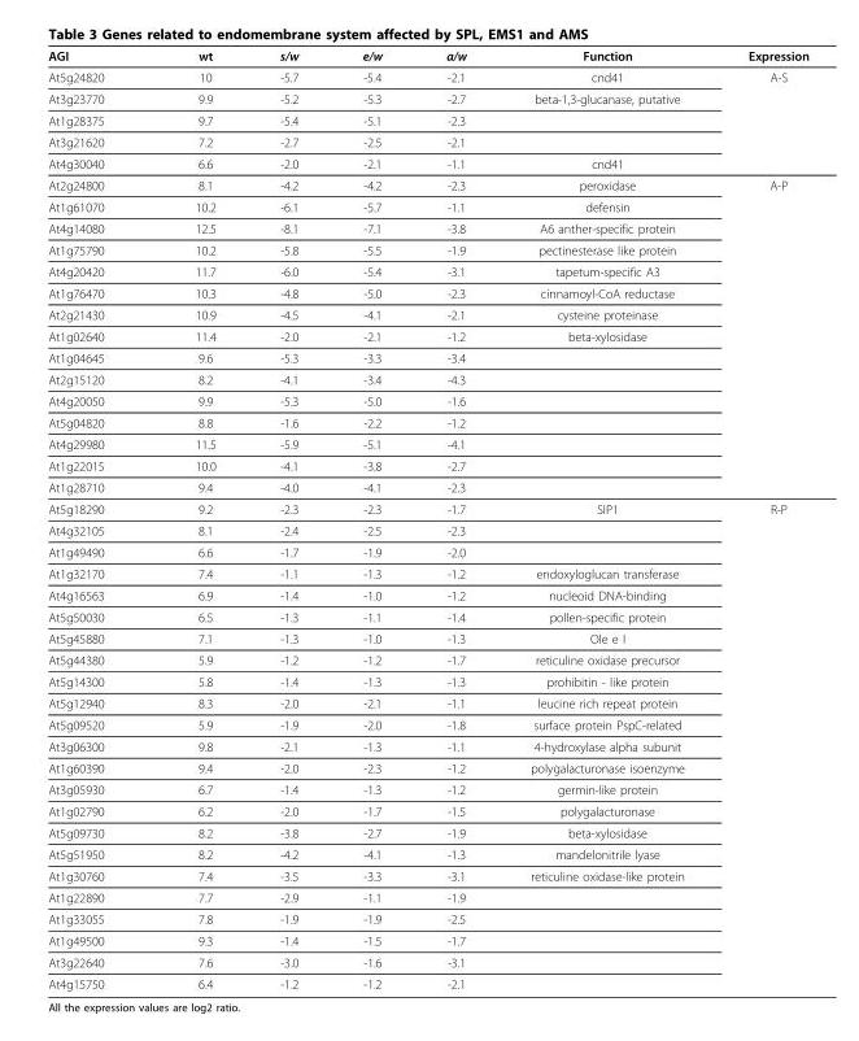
<table><thead><tr><td>AGI</td><td>wt</td><td>s/w</td><td>e/w</td><td>a/w</td><td>Function</td><td>Expression</td></tr></thead><tbody><tr><td>At5g24820</td><td>10</td><td>-5.7</td><td>-5.4</td><td>-2.1</td><td>cnd41</td><td>A-S</td></tr><tr><td>At3g23770</td><td>9.9</td><td>-5.2</td><td>-5.3</td><td>-2.7</td><td>beta-1,3-glucanase, putative</td><td></td></tr><tr><td>At1g28375</td><td>9.7</td><td>-5.4</td><td>-5.1</td><td>-2.3</td><td></td><td></td></tr><tr><td>At3g21620</td><td>7.2</td><td>-2.7</td><td>-2.5</td><td>-2.1</td><td></td><td></td></tr><tr><td>At4g30040</td><td>6.6</td><td>-2.0</td><td>-2.1</td><td>-1.1</td><td>cnd41</td><td></td></tr><tr><td>At2g24800</td><td>8.1</td><td>-4.2</td><td>-4.2</td><td>-2.3</td><td>peroxidase</td><td>A-P</td></tr><tr><td>At1g61070</td><td>10.2</td><td>-6.1</td><td>-5.7</td><td>-1.1</td><td>defensin</td><td></td></tr><tr><td>At4g14080</td><td>12.5</td><td>-8.1</td><td>-7.1</td><td>-3.8</td><td>A6 anther-specific protein</td><td></td></tr><tr><td>At1g75790</td><td>10.2</td><td>-5.8</td><td>-5.5</td><td>-1.9</td><td>pectinesterase like protein</td><td></td></tr><tr><td>At4g20420</td><td>11.7</td><td>-6.0</td><td>-5.4</td><td>-3.1</td><td>tapetum-specific A3</td><td></td></tr><tr><td>At1g76470</td><td>10.3</td><td>-4.8</td><td>-5.0</td><td>-2.3</td><td>cinnamoyl-CoA reductase</td><td></td></tr><tr><td>At2g21430</td><td>10.9</td><td>-4.5</td><td>-4.1</td><td>-2.1</td><td>cysteine proteinase</td><td></td></tr><tr><td>At1g02640</td><td>11.4</td><td>-2.0</td><td>-2.1</td><td>-1.2</td><td>beta-xylosidase</td><td></td></tr><tr><td>At1g04645</td><td>9.6</td><td>-5.3</td><td>-3.3</td><td>-3.4</td><td></td><td></td></tr><tr><td>At2g15120</td><td>8.2</td><td>-4.1</td><td>-3.4</td><td>-4.3</td><td></td><td></td></tr><tr><td>At4g20050</td><td>9.9</td><td>-5.3</td><td>-5.0</td><td>-1.6</td><td></td><td></td></tr><tr><td>At5g04820</td><td>8.8</td><td>-1.6</td><td>-2.2</td><td>-1.2</td><td></td><td></td></tr><tr><td>At4g29980</td><td>11.5</td><td>-5.9</td><td>-5.1</td><td>-4.1</td><td></td><td></td></tr><tr><td>At1g22015</td><td>10.0</td><td>-4.1</td><td>-3.8</td><td>-2.7</td><td></td><td></td></tr><tr><td>At1g28710</td><td>9.4</td><td>-4.0</td><td>-4.1</td><td>-2.3</td><td></td><td></td></tr><tr><td>At5g18290</td><td>9.2</td><td>-2.3</td><td>-2.3</td><td>-1.7</td><td>SIP1</td><td>R-P</td></tr><tr><td>At4g32105</td><td>8.1</td><td>-2.4</td><td>-2.5</td><td>-2.3</td><td></td><td></td></tr><tr><td>At1g49490</td><td>6.6</td><td>-1.7</td><td>-1.9</td><td>-2.0</td><td></td><td></td></tr><tr><td>At1g32170</td><td>7.4</td><td>-1.1</td><td>-1.3</td><td>-1.2</td><td>endoxyloglucan transferase</td><td></td></tr><tr><td>At4g16563</td><td>6.9</td><td>-1.4</td><td>-1.0</td><td>-1.2</td><td>nucleoid DNA-binding</td><td></td></tr><tr><td>At5g50030</td><td>6.5</td><td>-1.3</td><td>-1.1</td><td>-1.4</td><td>pollen-specific protein</td><td></td></tr><tr><td>At5g45880</td><td>7.1</td><td>-1.3</td><td>-1.0</td><td>-1.3</td><td>Ole e I</td><td></td></tr><tr><td>At5g44380</td><td>5.9</td><td>-1.2</td><td>-1.2</td><td>-1.7</td><td>reticuline oxidase precursor</td><td></td></tr><tr><td>At5g14300</td><td>5.8</td><td>-1.4</td><td>-1.3</td><td>-1.3</td><td>prohibitin - like protein</td><td></td></tr><tr><td>At5g12940</td><td>8.3</td><td>-2.0</td><td>-2.1</td><td>-1.1</td><td>leucine rich repeat protein</td><td></td></tr><tr><td>At5g09520</td><td>5.9</td><td>-1.9</td><td>-2.0</td><td>-1.8</td><td>surface protein PspC-related</td><td></td></tr><tr><td>At3g06300</td><td>9.8</td><td>-2.1</td><td>-1.3</td><td>-1.1</td><td>4-hydroxylase alpha subunit</td><td></td></tr><tr><td>At1g60390</td><td>9.4</td><td>-2.0</td><td>-2.3</td><td>-1.2</td><td>polygalacturonase isoenzyme</td><td></td></tr><tr><td>At3g05930</td><td>6.7</td><td>-1.4</td><td>-1.3</td><td>-1.2</td><td>germin-like protein</td><td></td></tr><tr><td>At1g02790</td><td>6.2</td><td>-2.0</td><td>-1.7</td><td>-1.5</td><td>polygalacturonase</td><td></td></tr><tr><td>At5g09730</td><td>8.2</td><td>-3.8</td><td>-2.7</td><td>-1.9</td><td>beta-xylosidase</td><td></td></tr><tr><td>At5g51950</td><td>8.2</td><td>-4.2</td><td>-4.1</td><td>-1.3</td><td>mandelonitrile lyase</td><td></td></tr><tr><td>At1g30760</td><td>7.4</td><td>-3.5</td><td>-3.3</td><td>-3.1</td><td>reticuline oxidase-like protein</td><td></td></tr><tr><td>At1g22890</td><td>7.7</td><td>-2.9</td><td>-1.1</td><td>-1.9</td><td></td><td></td></tr><tr><td>At1g33055</td><td>7.8</td><td>-1.9</td><td>-1.9</td><td>-2.5</td><td></td><td></td></tr><tr><td>At1g49500</td><td>9.3</td><td>-1.4</td><td>-1.5</td><td>-1.7</td><td></td><td></td></tr><tr><td>At3g22640</td><td>7.6</td><td>-3.0</td><td>-1.6</td><td>-3.1</td><td></td><td></td></tr><tr><td>At4g15750</td><td>6.4</td><td>-1.2</td><td>-1.2</td><td>-2.1</td><td></td><td></td></tr></tbody></table>